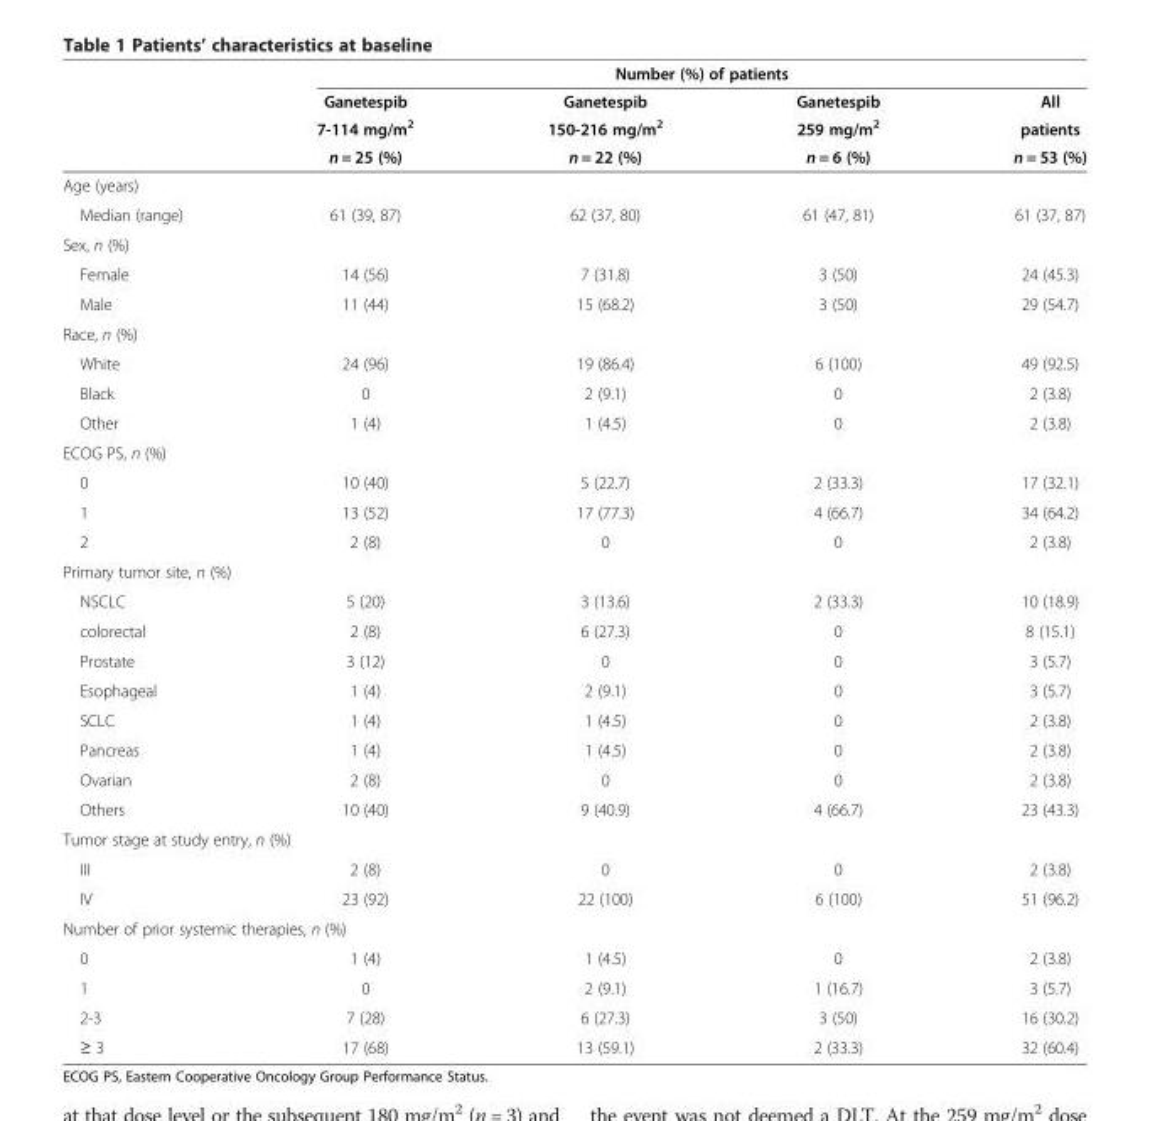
<table><thead><tr><td rowspan="4"></td><td colspan="4">Number (%) of patients</td></tr><tr><td rowspan="3">Ganetespib 7-114 mg/m<sup>2</sup> n = 25 (%)</td><td rowspan="3">Ganetespib 150-216 mg/m<sup>2</sup> n = 22 (%)</td><td rowspan="3">Ganetespib 259 mg/m<sup>2</sup> n = 6 (%)</td><td rowspan="3">All patients n = 53 (%)</td></tr><tr></tr><tr></tr></thead><tbody><tr><td colspan="5">Age (years)</td></tr><tr><td>Median (range)</td><td>61 (39, 87)</td><td>62 (37, 80)</td><td>61 (47, 81)</td><td>61 (37, 87)</td></tr><tr><td colspan="5">Sex, n (%)</td></tr><tr><td>Female</td><td>14 (56)</td><td>7 (31.8)</td><td>3 (50)</td><td>24 (45.3)</td></tr><tr><td>Male</td><td>11 (44)</td><td>15 (68.2)</td><td>3 (50)</td><td>29 (54.7)</td></tr><tr><td colspan="5">Race, n (%)</td></tr><tr><td>White</td><td>24 (96)</td><td>19 (86.4)</td><td>6 (100)</td><td>49 (92.5)</td></tr><tr><td>Black</td><td>0</td><td>2 (9.1)</td><td>0</td><td>2 (3.8)</td></tr><tr><td>Other</td><td>1 (4)</td><td>1 (4.5)</td><td>0</td><td>2 (3.8)</td></tr><tr><td colspan="5">ECOG PS, n (%)</td></tr><tr><td>0</td><td>10 (40)</td><td>5 (22.7)</td><td>2 (33.3)</td><td>17 (32.1)</td></tr><tr><td>1</td><td>13 (52)</td><td>17 (77.3)</td><td>4 (66.7)</td><td>34 (64.2)</td></tr><tr><td>2</td><td>2 (8)</td><td>0</td><td>0</td><td>2 (3.8)</td></tr><tr><td colspan="5">Primary tumor site, n (%)</td></tr><tr><td>NSCLC</td><td>5 (20)</td><td>3 (13.6)</td><td>2 (33.3)</td><td>10 (18.9)</td></tr><tr><td>colorectal</td><td>2 (8)</td><td>6 (27.3)</td><td>0</td><td>8 (15.1)</td></tr><tr><td>Prostate</td><td>3 (12)</td><td>0</td><td>0</td><td>3 (5.7)</td></tr><tr><td>Esophageal</td><td>1 (4)</td><td>2 (9.1)</td><td>0</td><td>3 (5.7)</td></tr><tr><td>SCLC</td><td>1 (4)</td><td>1 (4.5)</td><td>0</td><td>2 (3.8)</td></tr><tr><td>Pancreas</td><td>1 (4)</td><td>1 (4.5)</td><td>0</td><td>2 (3.8)</td></tr><tr><td>Ovarian</td><td>2 (8)</td><td>0</td><td>0</td><td>2 (3.8)</td></tr><tr><td>Others</td><td>10 (40)</td><td>9 (40.9)</td><td>4 (66.7)</td><td>23 (43.3)</td></tr><tr><td colspan="5">Tumor stage at study entry, n (%)</td></tr><tr><td>III</td><td>2 (8)</td><td>0</td><td>0</td><td>2 (3.8)</td></tr><tr><td>IV</td><td>23 (92)</td><td>22 (100)</td><td>6 (100)</td><td>51 (96.2)</td></tr><tr><td colspan="5">Number of prior systemic therapies, n (%)</td></tr><tr><td>0</td><td>1 (4)</td><td>1 (4.5)</td><td>0</td><td>2 (3.8)</td></tr><tr><td>1</td><td>0</td><td>2 (9.1)</td><td>1 (16.7)</td><td>3 (5.7)</td></tr><tr><td>2-3</td><td>7 (28)</td><td>6 (27.3)</td><td>3 (50)</td><td>16 (30.2)</td></tr><tr><td>≥ 3</td><td>17 (68)</td><td>13 (59.1)</td><td>2 (33.3)</td><td>32 (60.4)</td></tr></tbody></table>